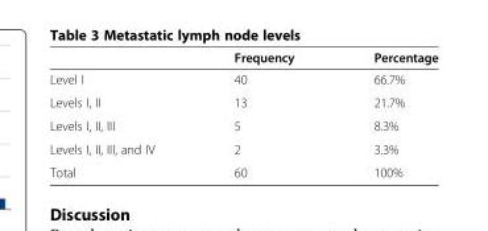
<table><thead><tr><td></td><td>Frequency</td><td>Percentage</td></tr></thead><tbody><tr><td>Level I</td><td>40</td><td>66.7%</td></tr><tr><td>Levels I, II</td><td>13</td><td>21.7%</td></tr><tr><td>Levels I, II, III</td><td>5</td><td>8.3%</td></tr><tr><td>Levels I, II, III, and IV</td><td>2</td><td>3.3%</td></tr><tr><td>Total</td><td>60</td><td>100%</td></tr></tbody></table>